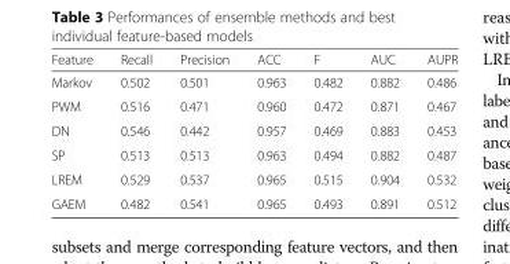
<table><thead><tr><td>Feature</td><td>Recall</td><td>Precision</td><td>ACC</td><td>F</td><td>AUC</td><td>AUPR</td></tr></thead><tbody><tr><td>Markov</td><td>0.502</td><td>0.501</td><td>0.963</td><td>0.482</td><td>0.882</td><td>0.486</td></tr><tr><td>PWM</td><td>0.516</td><td>0.471</td><td>0.960</td><td>0.472</td><td>0.871</td><td>0.467</td></tr><tr><td>DN</td><td>0.546</td><td>0.442</td><td>0.957</td><td>0.469</td><td>0.883</td><td>0.453</td></tr><tr><td>SP</td><td>0.513</td><td>0.513</td><td>0.963</td><td>0.494</td><td>0.882</td><td>0.487</td></tr><tr><td>LREM</td><td>0.529</td><td>0.537</td><td>0.965</td><td>0.515</td><td>0.904</td><td>0.532</td></tr><tr><td>GAEM</td><td>0.482</td><td>0.541</td><td>0.965</td><td>0.493</td><td>0.891</td><td>0.512</td></tr></tbody></table>